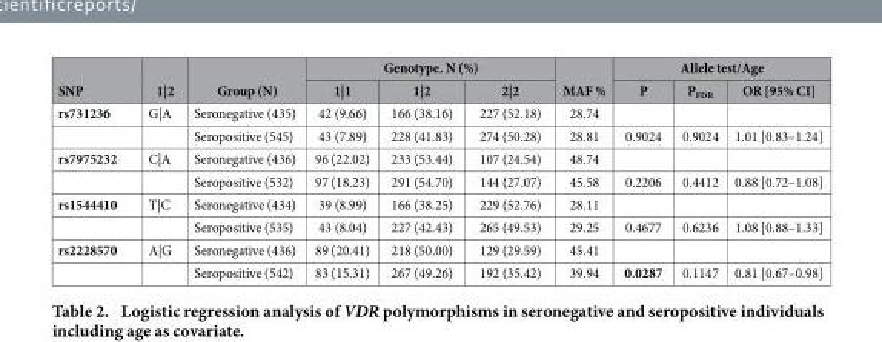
<table><thead><tr><td rowspan="2">SNP</td><td rowspan="2">1|2</td><td rowspan="2">Group (N)</td><td colspan="3">Genotype. N (%)</td><td rowspan="2">MAF %</td><td colspan="3">Allele test/Age</td></tr><tr><td>1|1</td><td>1|2</td><td>2|2</td><td>P</td><td>P<sub>FDR</sub></td><td>OR [95% CI]</td></tr></thead><tbody><tr><td rowspan="2">rs731236</td><td>G|A</td><td>Seronegative (435)</td><td>42 (9.66)</td><td>166 (38.16)</td><td>227 (52.18)</td><td>28.74</td><td></td><td></td><td></td></tr><tr><td></td><td>Seropositive (545)</td><td>43 (7.89)</td><td>228 (41.83)</td><td>274 (50.28)</td><td>28.81</td><td>0.9024</td><td>0.9024</td><td>1.01 [0.83–1.24]</td></tr><tr><td rowspan="2">rs7975232</td><td>C|A</td><td>Seronegative (436)</td><td>96 (22.02)</td><td>233 (53.44)</td><td>107 (24.54)</td><td>48.74</td><td></td><td></td><td></td></tr><tr><td></td><td>Seropositive (532)</td><td>97 (18.23)</td><td>291 (54.70)</td><td>144 (27.07)</td><td>45.58</td><td>0.2206</td><td>0.4412</td><td>0.88 [0.72–1.08]</td></tr><tr><td rowspan="2">rs1544410</td><td>T|C</td><td>Seronegative (434)</td><td>39 (8.99)</td><td>166 (38.25)</td><td>229 (52.76)</td><td>28.11</td><td></td><td></td><td></td></tr><tr><td></td><td>Seropositive (535)</td><td>43 (8.04)</td><td>227 (42.43)</td><td>265 (49.53)</td><td>29.25</td><td>0.4677</td><td>0.6236</td><td>1.08 [0.88–1.33]</td></tr><tr><td rowspan="2">rs2228570</td><td>A|G</td><td>Seronegative (436)</td><td>89 (20.41)</td><td>218 (50.00)</td><td>129 (29.59)</td><td>45.41</td><td></td><td></td><td></td></tr><tr><td></td><td>Seropositive (542)</td><td>83 (15.31)</td><td>267 (49.26)</td><td>192 (35.42)</td><td>39.94</td><td>0.0287</td><td>0.1147</td><td>0.81 [0.67–0.98]</td></tr></tbody></table>